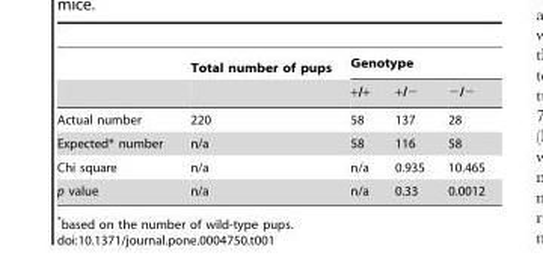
<table><thead><tr><td rowspan="2"></td><td rowspan="2">Total number of pups</td><td colspan="3">Genotype</td></tr><tr><td>+/+</td><td>+/−</td><td>−/−</td></tr></thead><tbody><tr><td>Actual number</td><td>220</td><td>58</td><td>137</td><td>28</td></tr><tr><td>Expected* number</td><td>n/a</td><td>58</td><td>116</td><td>58</td></tr><tr><td>Chi square</td><td>n/a</td><td>n/a</td><td>0.935</td><td>10.465</td></tr><tr><td>p value</td><td>n/a</td><td>n/a</td><td>0.33</td><td>0.0012</td></tr></tbody></table>